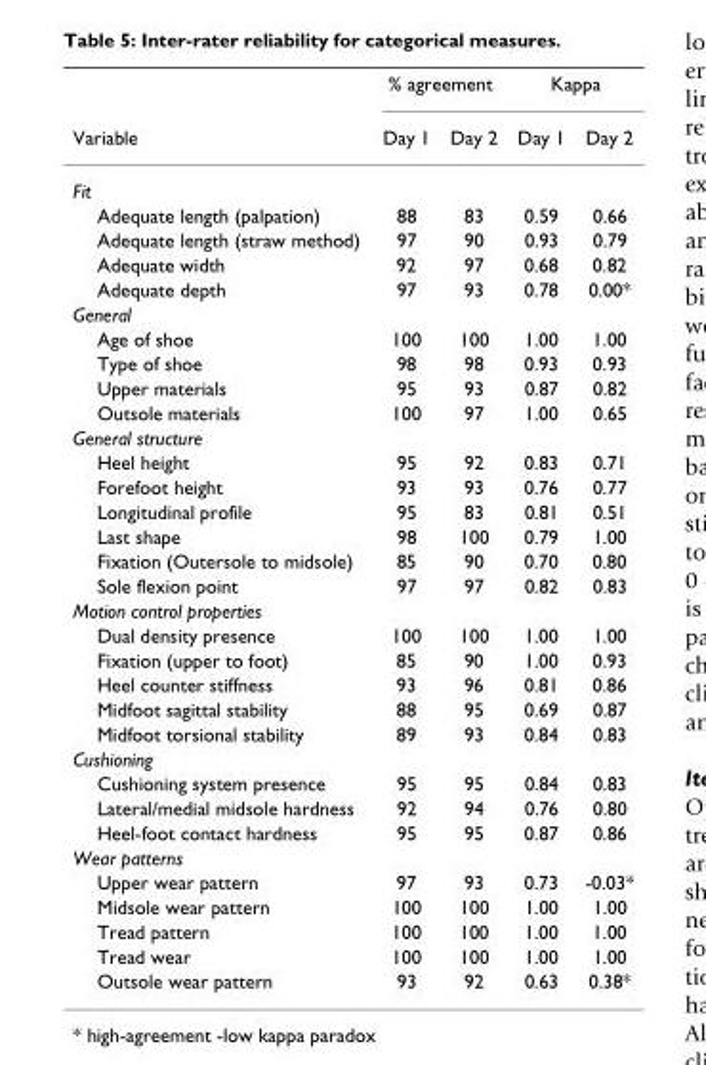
<table><thead><tr><td rowspan="2">Variable</td><td colspan="2">% agreement</td><td colspan="2">Kappa</td></tr><tr><td>Day 1</td><td>Day 2</td><td>Day 1</td><td>Day 2</td></tr></thead><tbody><tr><td colspan="5">Fit</td></tr><tr><td>Adequate length (palpation)</td><td>88</td><td>83</td><td>0.59</td><td>0.66</td></tr><tr><td>Adequate length (straw method)</td><td>97</td><td>90</td><td>0.93</td><td>0.79</td></tr><tr><td>Adequate width</td><td>92</td><td>97</td><td>0.68</td><td>0.82</td></tr><tr><td>Adequate depth</td><td>97</td><td>93</td><td>0.78</td><td>0.00*</td></tr><tr><td colspan="5">General</td></tr><tr><td>Age of shoe</td><td>100</td><td>100</td><td>1.00</td><td>1.00</td></tr><tr><td>Type of shoe</td><td>98</td><td>98</td><td>0.93</td><td>0.93</td></tr><tr><td>Upper materials</td><td>95</td><td>93</td><td>0.87</td><td>0.82</td></tr><tr><td>Outsole materials</td><td>100</td><td>97</td><td>1.00</td><td>0.65</td></tr><tr><td colspan="5">General structure</td></tr><tr><td>Heel height</td><td>95</td><td>92</td><td>0.83</td><td>0.71</td></tr><tr><td>Forefoot height</td><td>93</td><td>93</td><td>0.76</td><td>0.77</td></tr><tr><td>Longitudinal profile</td><td>95</td><td>83</td><td>0.81</td><td>0.51</td></tr><tr><td>Last shape</td><td>98</td><td>100</td><td>0.79</td><td>1.00</td></tr><tr><td>Fixation (Outersole to midsole)</td><td>85</td><td>90</td><td>0.70</td><td>0.80</td></tr><tr><td>Sole flexion point</td><td>97</td><td>97</td><td>0.82</td><td>0.83</td></tr><tr><td colspan="5">Motion control properties</td></tr><tr><td>Dual density presence</td><td>100</td><td>100</td><td>1.00</td><td>1.00</td></tr><tr><td>Fixation (upper to foot)</td><td>85</td><td>90</td><td>1.00</td><td>0.93</td></tr><tr><td>Heel counter stiffness</td><td>93</td><td>96</td><td>0.81</td><td>0.86</td></tr><tr><td>Midfoot sagittal stability</td><td>88</td><td>95</td><td>0.69</td><td>0.87</td></tr><tr><td>Midfoot torsional stability</td><td>89</td><td>93</td><td>0.84</td><td>0.83</td></tr><tr><td colspan="5">Cushioning</td></tr><tr><td>Cushioning system presence</td><td>95</td><td>95</td><td>0.84</td><td>0.83</td></tr><tr><td>Lateral/medial midsole hardness</td><td>92</td><td>94</td><td>0.76</td><td>0.80</td></tr><tr><td>Heel-foot contact hardness</td><td>95</td><td>95</td><td>0.87</td><td>0.86</td></tr><tr><td colspan="5">Wear patterns</td></tr><tr><td>Upper wear pattern</td><td>97</td><td>93</td><td>0.73</td><td>-0.03*</td></tr><tr><td>Midsole wear pattern</td><td>100</td><td>100</td><td>1.00</td><td>1.00</td></tr><tr><td>Tread pattern</td><td>100</td><td>100</td><td>1.00</td><td>1.00</td></tr><tr><td>Tread wear</td><td>100</td><td>100</td><td>1.00</td><td>1.00</td></tr><tr><td>Outsole wear pattern</td><td>93</td><td>92</td><td>0.63</td><td>0.38*</td></tr></tbody></table>